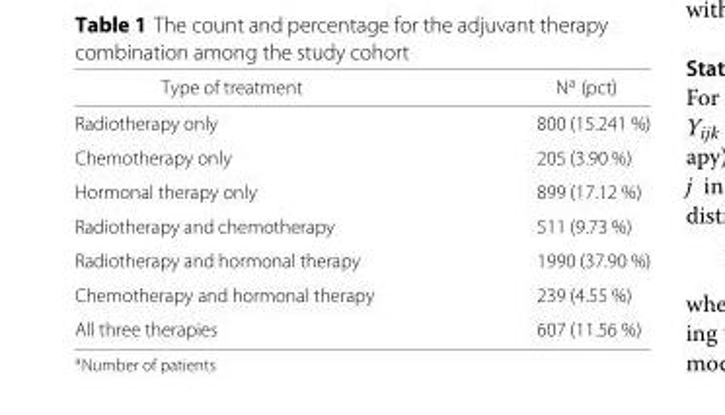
<table><thead><tr><td>Type of treatment</td><td>N<sup>a</sup> (pct)</td></tr></thead><tbody><tr><td>Radiotherapy only</td><td>800 (15.241 %)</td></tr><tr><td>Chemotherapy only</td><td>205 (3.90 %)</td></tr><tr><td>Hormonal therapy only</td><td>899 (17.12 %)</td></tr><tr><td>Radiotherapy and chemotherapy</td><td>511 (9.73 %)</td></tr><tr><td>Radiotherapy and hormonal therapy</td><td>1990 (37.90 %)</td></tr><tr><td>Chemotherapy and hormonal therapy</td><td>239 (4.55 %)</td></tr><tr><td>All three therapies</td><td>607 (11.56 %)</td></tr></tbody></table>